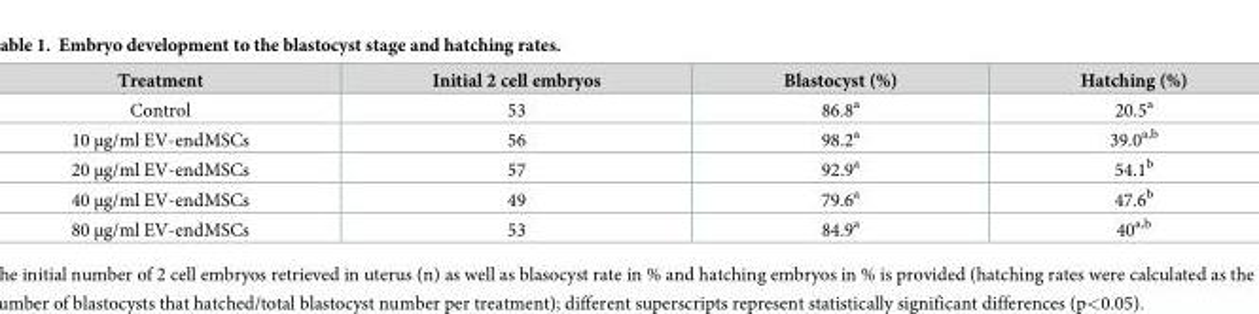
<table><thead><tr><td>Treatment</td><td>Initial 2 cell embryos</td><td>Blastocyst (%)</td><td>Hatching (%)</td></tr></thead><tbody><tr><td>Control</td><td>53</td><td>86.8<sup>a</sup></td><td>20.5<sup>a</sup></td></tr><tr><td>10 μg/ml EV-endMSCs</td><td>56</td><td>98.2<sup>a</sup></td><td>39.0<sup>a,b</sup></td></tr><tr><td>20 μg/ml EV-endMSCs</td><td>57</td><td>92.9<sup>a</sup></td><td>54.1<sup>b</sup></td></tr><tr><td>40 μg/ml EV-endMSCs</td><td>49</td><td>79.6<sup>a</sup></td><td>47.6<sup>b</sup></td></tr><tr><td>80 μg/ml EV-endMSCs</td><td>53</td><td>84.9<sup>a</sup></td><td>40<sup>a,b</sup></td></tr></tbody></table>